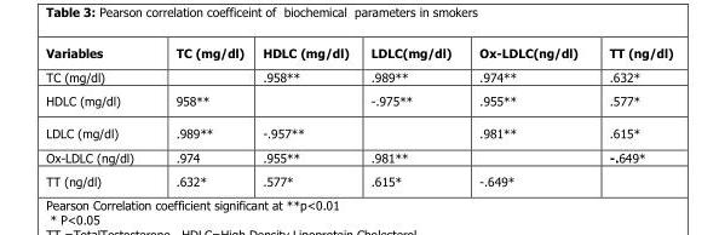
<table><thead><tr><td>Variables</td><td>TC (mg/dl)</td><td>HDLC (mg/dl)</td><td>LDLC(mg/dl)</td><td>Ox-LDLC(ng/dl)</td><td>TT (ng/dl)</td></tr></thead><tbody><tr><td>TC (mg/dl)</td><td></td><td>.958**</td><td>.989**</td><td>.974**</td><td>.632*</td></tr><tr><td>HDLC (mg/dl)</td><td>958**</td><td></td><td>-.975**</td><td>.955**</td><td>.577*</td></tr><tr><td>LDLC (mg/dl)</td><td>.989**</td><td>-.957**</td><td></td><td>.981**</td><td>.615*</td></tr><tr><td>Ox-LDLC (ng/dl)</td><td>.974</td><td>.955**</td><td>.981**</td><td></td><td>-.649*</td></tr><tr><td>TT (ng/dl)</td><td>.632*</td><td>.577*</td><td>.615*</td><td>-.649*</td><td></td></tr></tbody></table>